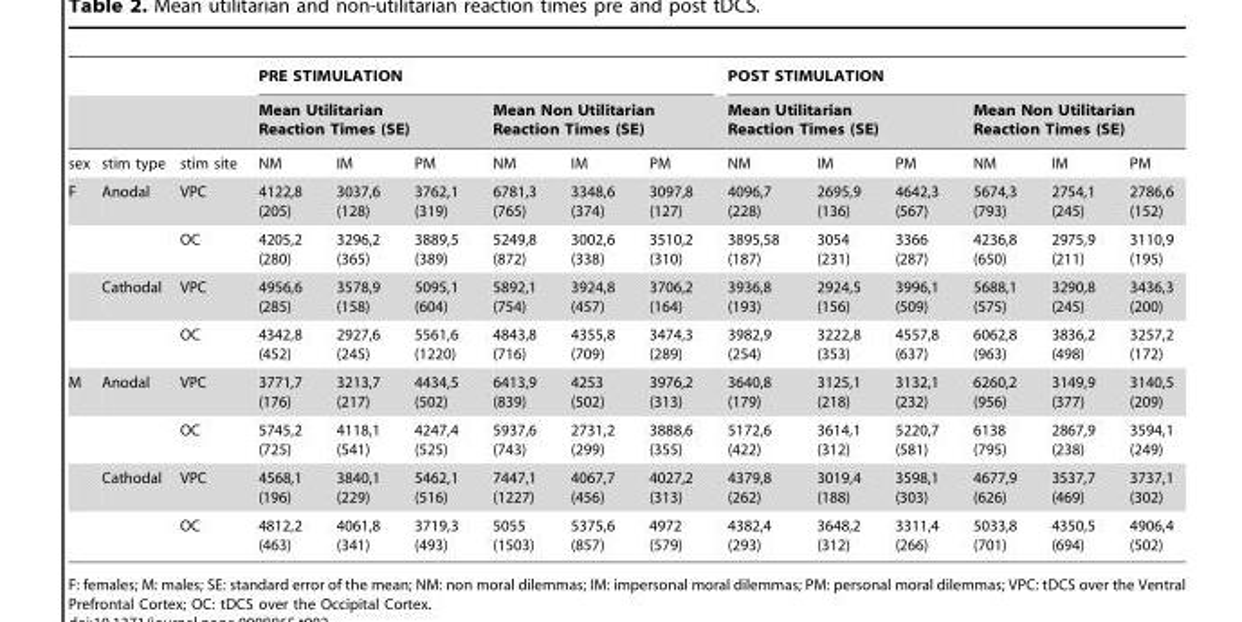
<table><thead><tr><td rowspan="3">sex</td><td rowspan="3">stim type</td><td rowspan="3">stim site</td><td colspan="6">PRE STIMULATION</td><td colspan="6">POST STIMULATION</td></tr><tr><td colspan="3">Mean Utilitarian Reaction Times (SE)</td><td colspan="3">Mean Non Utilitarian Reaction Times (SE)</td><td colspan="3">Mean Utilitarian Reaction Times (SE)</td><td colspan="3">Mean Non Utilitarian Reaction Times (SE)</td></tr><tr><td>NM</td><td>IM</td><td>PM</td><td>NM</td><td>IM</td><td>PM</td><td>NM</td><td>IM</td><td>PM</td><td>NM</td><td>IM</td><td>PM</td></tr></thead><tbody><tr><td rowspan="4">F</td><td>Anodal</td><td>VPC</td><td>4122,8 (205)</td><td>3037,6 (128)</td><td>3762,1 (319)</td><td>6781,3 (765)</td><td>3348,6 (374)</td><td>3097,8 (127)</td><td>4096,7 (228)</td><td>2695,9 (136)</td><td>4642,3 (567)</td><td>5674,3 (793)</td><td>2754,1 (245)</td><td>2786,6 (152)</td></tr><tr><td></td><td>OC</td><td>4205,2 (280)</td><td>3296,2 (365)</td><td>3889,5 (389)</td><td>5249,8 (872)</td><td>3002,6 (338)</td><td>3510,2 (310)</td><td>3895,58 (187)</td><td>3054 (231)</td><td>3366 (287)</td><td>4236,8 (650)</td><td>2975,9 (211)</td><td>3110,9 (195)</td></tr><tr><td>Cathodal</td><td>VPC</td><td>4956,6 (285)</td><td>3578,9 (158)</td><td>5095,1 (604)</td><td>5892,1 (754)</td><td>3924,8 (457)</td><td>3706,2 (164)</td><td>3936,8 (193)</td><td>2924,5 (156)</td><td>3996,1 (509)</td><td>5688,1 (575)</td><td>3290,8 (245)</td><td>3436,3 (200)</td></tr><tr><td></td><td>OC</td><td>4342,8 (452)</td><td>2927,6 (245)</td><td>5561,6 (1220)</td><td>4843,8 (716)</td><td>4355,8 (709)</td><td>3474,3 (289)</td><td>3982,9 (254)</td><td>3222,8 (353)</td><td>4557,8 (637)</td><td>6062,8 (963)</td><td>3836,2 (498)</td><td>3257,2 (172)</td></tr><tr><td rowspan="4">M</td><td>Anodal</td><td>VPC</td><td>3771,7 (176)</td><td>3213,7 (217)</td><td>4434,5 (502)</td><td>6413,9 (839)</td><td>4253 (502)</td><td>3976,2 (313)</td><td>3640,8 (179)</td><td>3125,1 (218)</td><td>3132,1 (232)</td><td>6260,2 (956)</td><td>3149,9 (377)</td><td>3140,5 (209)</td></tr><tr><td></td><td>OC</td><td>5745,2 (725)</td><td>4118,1 (541)</td><td>4247,4 (525)</td><td>5937,6 (743)</td><td>2731,2 (299)</td><td>3888,6 (355)</td><td>5172,6 (422)</td><td>3614,1 (312)</td><td>5220,7 (581)</td><td>6138 (795)</td><td>2867,9 (238)</td><td>3594,1 (249)</td></tr><tr><td>Cathodal</td><td>VPC</td><td>4568,1 (196)</td><td>3840,1 (229)</td><td>5462,1 (516)</td><td>7447,1 (1227)</td><td>4067,7 (456)</td><td>4027,2 (313)</td><td>4379,8 (262)</td><td>3019,4 (188)</td><td>3598,1 (303)</td><td>4677,9 (626)</td><td>3537,7 (469)</td><td>3737,1 (302)</td></tr><tr><td></td><td>OC</td><td>4812,2 (463)</td><td>4061,8 (341)</td><td>3719,3 (493)</td><td>5055 (1503)</td><td>5375,6 (857)</td><td>4972 (579)</td><td>4382,4 (293)</td><td>3648,2 (312)</td><td>3311,4 (266)</td><td>5033,8 (701)</td><td>4350,5 (694)</td><td>4906,4 (502)</td></tr></tbody></table>